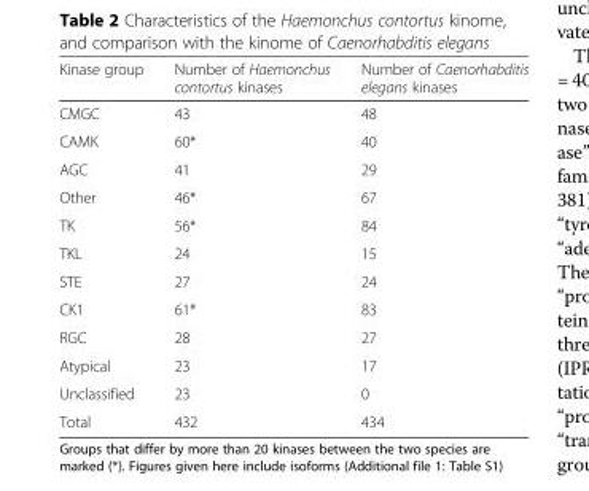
<table><thead><tr><td>Kinase group</td><td>Number of Haemonchus contortus kinases</td><td>Number of Caenorhabditis elegans kinases</td></tr></thead><tbody><tr><td>CMGC</td><td>43</td><td>48</td></tr><tr><td>CAMK</td><td>60*</td><td>40</td></tr><tr><td>AGC</td><td>41</td><td>29</td></tr><tr><td>Other</td><td>46*</td><td>67</td></tr><tr><td>TK</td><td>56*</td><td>84</td></tr><tr><td>TKL</td><td>24</td><td>15</td></tr><tr><td>STE</td><td>27</td><td>24</td></tr><tr><td>CK1</td><td>61*</td><td>83</td></tr><tr><td>RGC</td><td>28</td><td>27</td></tr><tr><td>Atypical</td><td>23</td><td>17</td></tr><tr><td>Unclassified</td><td>23</td><td>0</td></tr><tr><td>Total</td><td>432</td><td>434</td></tr></tbody></table>